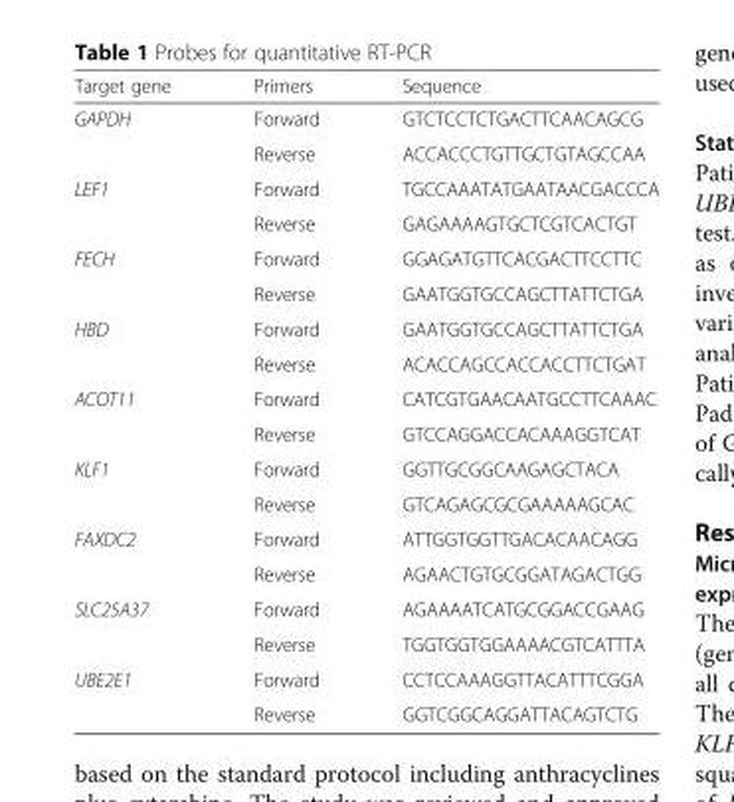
<table><thead><tr><td>Target gene</td><td>Primers</td><td>Sequence</td></tr></thead><tbody><tr><td rowspan="2">GAPDH</td><td>Forward</td><td>GTCTCCTCTGACTTCAACAGCG</td></tr><tr><td>Reverse</td><td>ACCACCCTGTTGCTGTAGCCAA</td></tr><tr><td rowspan="2">LEF1</td><td>Forward</td><td>TGCCAAATATGAATAACGACCCA</td></tr><tr><td>Reverse</td><td>GAGAAAAGTGCTCGTCACTGT</td></tr><tr><td rowspan="2">FECH</td><td>Forward</td><td>GGAGATGTTCACGACTTCCTTC</td></tr><tr><td>Reverse</td><td>GAATGGTGCCAGCTTATTCTGA</td></tr><tr><td rowspan="2">HBD</td><td>Forward</td><td>GAATGGTGCCAGCTTATTCTGA</td></tr><tr><td>Reverse</td><td>ACACCAGCCACCACCTTCTGAT</td></tr><tr><td rowspan="2">ACOT11</td><td>Forward</td><td>CATCGTGAACAATGCCTTCAAAC</td></tr><tr><td>Reverse</td><td>GTCCAGGACCACAAAGGTCAT</td></tr><tr><td rowspan="2">KLF1</td><td>Forward</td><td>GGTTGCGGCAAGAGCTACA</td></tr><tr><td>Reverse</td><td>GTCAGAGCGCGAAAAAGCAC</td></tr><tr><td rowspan="2">FAXDC2</td><td>Forward</td><td>ATTGGTGGTTGACACAACAGG</td></tr><tr><td>Reverse</td><td>AGAACTGTGCGGATAGACTGG</td></tr><tr><td rowspan="2">SLC25A37</td><td>Forward</td><td>AGAAAATCATGCGGACCGAAG</td></tr><tr><td>Reverse</td><td>TGGTGGTGGAAAACGTCATTTA</td></tr><tr><td rowspan="2">UBE2E1</td><td>Forward</td><td>CCTCCAAAGGTTACATTTCGGA</td></tr><tr><td>Reverse</td><td>GGTCGGCAGGATTACAGTCTG</td></tr></tbody></table>